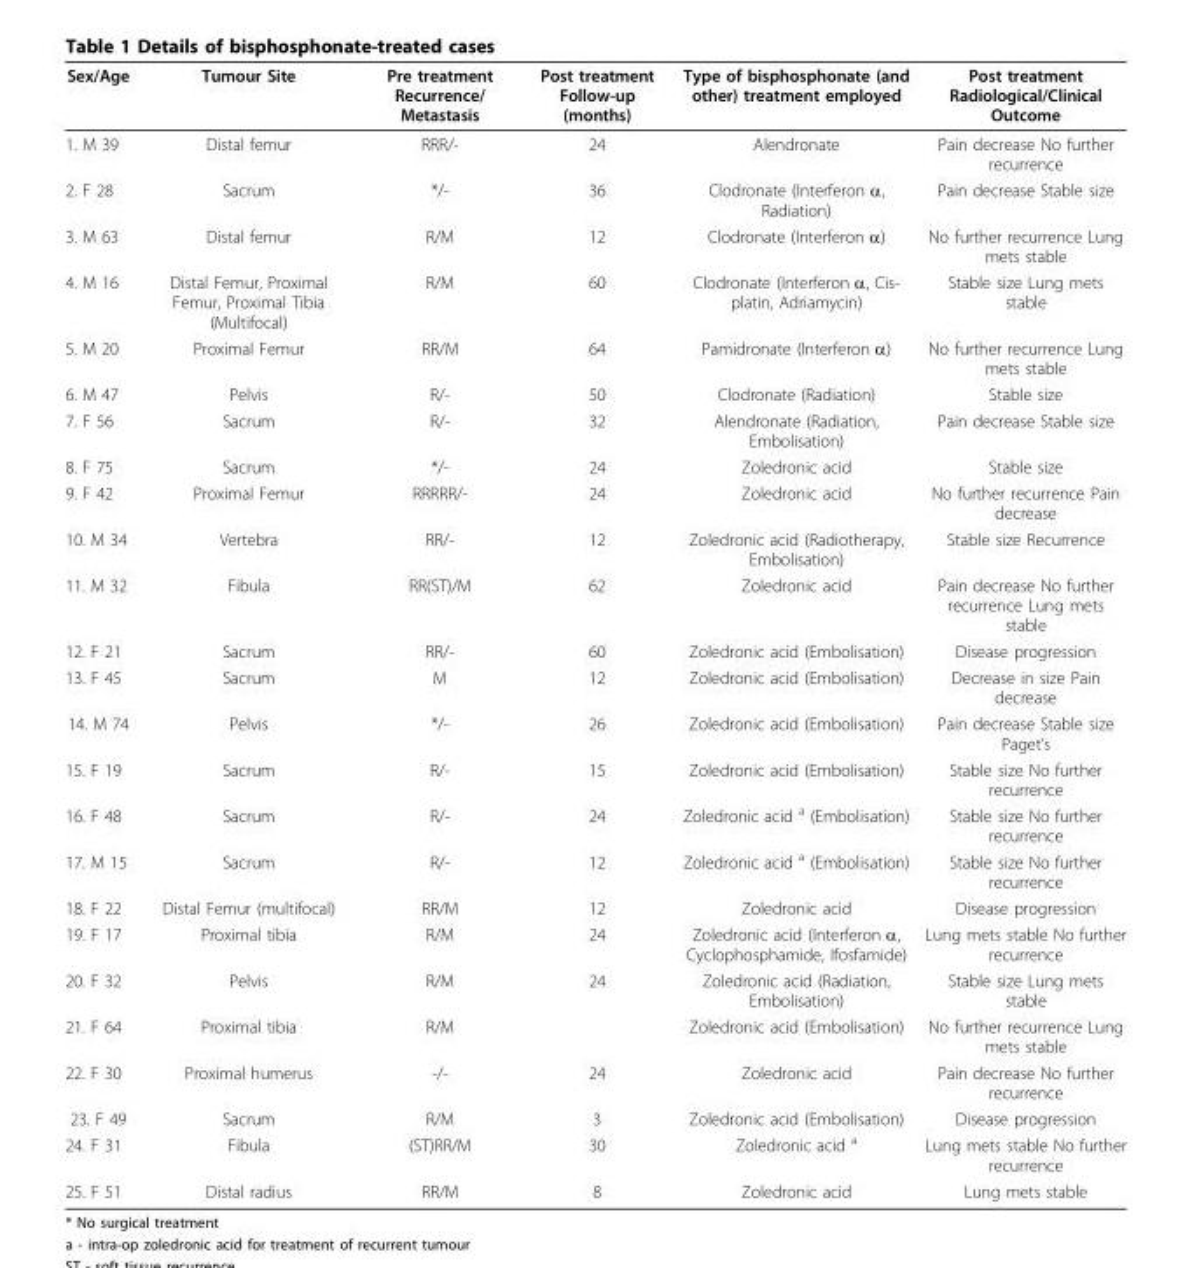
<table><thead><tr><td>Sex/Age</td><td>Tumour Site</td><td>Pre treatment Recurrence/ Metastasis</td><td>Post treatment Follow-up (months)</td><td>Type of bisphosphonate (and other) treatment employed</td><td>Post treatment Radiological/Clinical Outcome</td></tr></thead><tbody><tr><td>1. M 39</td><td>Distal femur</td><td>RRR/-</td><td>24</td><td>Alendronate</td><td>Pain decrease No further recurrence</td></tr><tr><td>2. F 28</td><td>Sacrum</td><td>*/-</td><td>36</td><td>Clodronate (Interferon α, Radiation)</td><td>Pain decrease Stable size</td></tr><tr><td>3. M 63</td><td>Distal femur</td><td>R/M</td><td>12</td><td>Clodronate (Interferon α)</td><td>No further recurrence Lung mets stable</td></tr><tr><td>4. M 16</td><td>Distal Femur, Proximal Femur, Proximal Tibia (Multifocal)</td><td>R/M</td><td>60</td><td>Clodronate (Interferon α, Cis- platin, Adriamycin)</td><td>Stable size Lung mets stable</td></tr><tr><td>5. M 20</td><td>Proximal Femur</td><td>RR/M</td><td>64</td><td>Pamidronate (Interferon α)</td><td>No further recurrence Lung mets stable</td></tr><tr><td>6. M 47</td><td>Pelvis</td><td>R/-</td><td>50</td><td>Clodronate (Radiation)</td><td>Stable size</td></tr><tr><td>7. F 56</td><td>Sacrum</td><td>R/-</td><td>32</td><td>Alendronate (Radiation, Embolisation)</td><td>Pain decrease Stable size</td></tr><tr><td>8. F 75</td><td>Sacrum</td><td>*/-</td><td>24</td><td>Zoledronic acid</td><td>Stable size</td></tr><tr><td>9. F 42</td><td>Proximal Femur</td><td>RRRRR/-</td><td>24</td><td>Zoledronic acid</td><td>No further recurrence Pain decrease</td></tr><tr><td>10. M 34</td><td>Vertebra</td><td>RR/-</td><td>12</td><td>Zoledronic acid (Radiotherapy, Embolisation)</td><td>Stable size Recurrence</td></tr><tr><td>11. M 32</td><td>Fibula</td><td>RR(ST)/M</td><td>62</td><td>Zoledronic acid</td><td>Pain decrease No further recurrence Lung mets stable</td></tr><tr><td>12. F 21</td><td>Sacrum</td><td>RR/-</td><td>60</td><td>Zoledronic acid (Embolisation)</td><td>Disease progression</td></tr><tr><td>13. F 45</td><td>Sacrum</td><td>M</td><td>12</td><td>Zoledronic acid (Embolisation)</td><td>Decrease in size Pain decrease</td></tr><tr><td>14. M 74</td><td>Pelvis</td><td>*/-</td><td>26</td><td>Zoledronic acid (Embolisation)</td><td>Pain decrease Stable size Paget’s</td></tr><tr><td>15. F 19</td><td>Sacrum</td><td>R/-</td><td>15</td><td>Zoledronic acid (Embolisation)</td><td>Stable size No further recurrence</td></tr><tr><td>16. F 48</td><td>Sacrum</td><td>R/-</td><td>24</td><td>Zoledronic acid <sup>a</sup> (Embolisation)</td><td>Stable size No further recurrence</td></tr><tr><td>17. M 15</td><td>Sacrum</td><td>R/-</td><td>12</td><td>Zoledronic acid <sup>a</sup> (Embolisation)</td><td>Stable size No further recurrence</td></tr><tr><td>18. F 22</td><td>Distal Femur (multifocal)</td><td>RR/M</td><td>12</td><td>Zoledronic acid</td><td>Disease progression</td></tr><tr><td>19. F 17</td><td>Proximal tibia</td><td>R/M</td><td>24</td><td>Zoledronic acid (Interferon α, Cyclophosphamide, Ifosfamide)</td><td>Lung mets stable No further recurrence</td></tr><tr><td>20. F 32</td><td>Pelvis</td><td>R/M</td><td>24</td><td>Zoledronic acid (Radiation, Embolisation)</td><td>Stable size Lung mets stable</td></tr><tr><td>21. F 64</td><td>Proximal tibia</td><td>R/M</td><td></td><td>Zoledronic acid (Embolisation)</td><td>No further recurrence Lung mets stable</td></tr><tr><td>22. F 30</td><td>Proximal humerus</td><td>-/-</td><td>24</td><td>Zoledronic acid</td><td>Pain decrease No further recurrence</td></tr><tr><td>23. F 49</td><td>Sacrum</td><td>R/M</td><td>3</td><td>Zoledronic acid (Embolisation)</td><td>Disease progression</td></tr><tr><td>24. F 31</td><td>Fibula</td><td>(ST)RR/M</td><td>30</td><td>Zoledronic acid <sup>a</sup></td><td>Lung mets stable No further recurrence</td></tr><tr><td>25. F 51</td><td>Distal radius</td><td>RR/M</td><td>8</td><td>Zoledronic acid</td><td>Lung mets stable</td></tr></tbody></table>